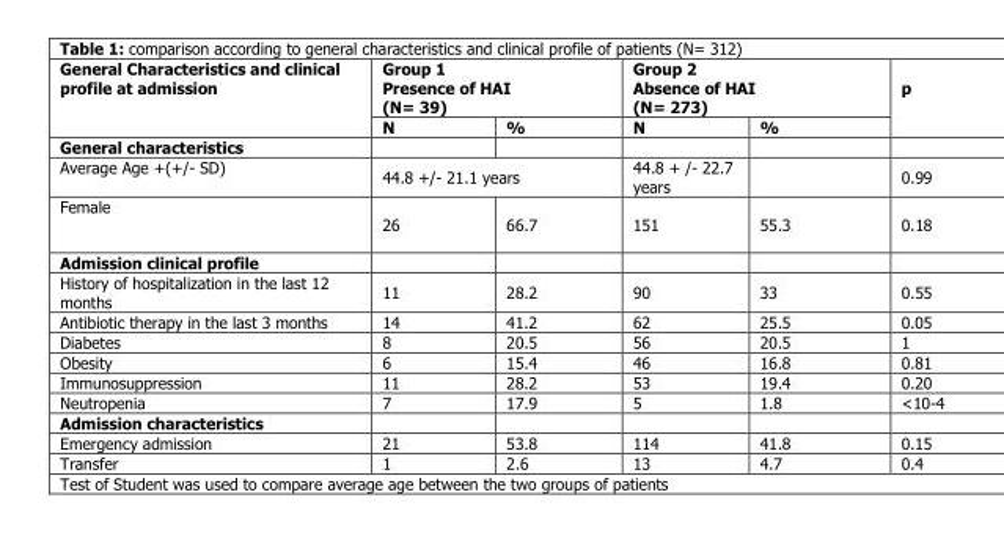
<table><thead><tr><td rowspan="2">General Characteristics and clinical profile at admission</td><td colspan="2">Group 1 Presence of HAI (N= 39)</td><td colspan="2">Group 2 Absence of HAI (N= 273)</td><td rowspan="2">p</td></tr><tr><td>N</td><td>%</td><td>N</td><td>%</td></tr></thead><tbody><tr><td colspan="6">General characteristics</td></tr><tr><td>Average Age +(+/- SD)</td><td colspan="2">44.8 +/- 21.1 years</td><td>44.8 + /- 22.7 years</td><td></td><td>0.99</td></tr><tr><td>Female</td><td>26</td><td>66.7</td><td>151</td><td>55.3</td><td>0.18</td></tr><tr><td colspan="6">Admission clinical profile</td></tr><tr><td>History of hospitalization in the last 12 months</td><td>11</td><td>28.2</td><td>90</td><td>33</td><td>0.55</td></tr><tr><td>Antibiotic therapy in the last 3 months</td><td>14</td><td>41.2</td><td>62</td><td>25.5</td><td>0.05</td></tr><tr><td>Diabetes</td><td>8</td><td>20.5</td><td>56</td><td>20.5</td><td>1</td></tr><tr><td>Obesity</td><td>6</td><td>15.4</td><td>46</td><td>16.8</td><td>0.81</td></tr><tr><td>Immunosuppression</td><td>11</td><td>28.2</td><td>53</td><td>19.4</td><td>0.20</td></tr><tr><td>Neutropenia</td><td>7</td><td>17.9</td><td>5</td><td>1.8</td><td>&lt;10-4</td></tr><tr><td colspan="6">Admission characteristics</td></tr><tr><td>Emergency admission</td><td>21</td><td>53.8</td><td>114</td><td>41.8</td><td>0.15</td></tr><tr><td>Transfer</td><td>1</td><td>2.6</td><td>13</td><td>4.7</td><td>0.4</td></tr></tbody></table>